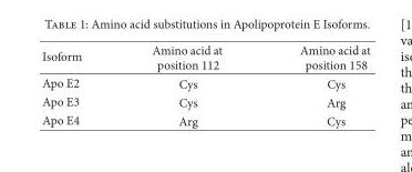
<table><thead><tr><td>Isoform</td><td>Amino acid at position 112</td><td>Amino acid at position 158</td></tr></thead><tbody><tr><td>Apo E2</td><td>Cys</td><td>Cys</td></tr><tr><td>Apo E3</td><td>Cys</td><td>Arg</td></tr><tr><td>Apo E4</td><td>Arg</td><td>Cys</td></tr></tbody></table>